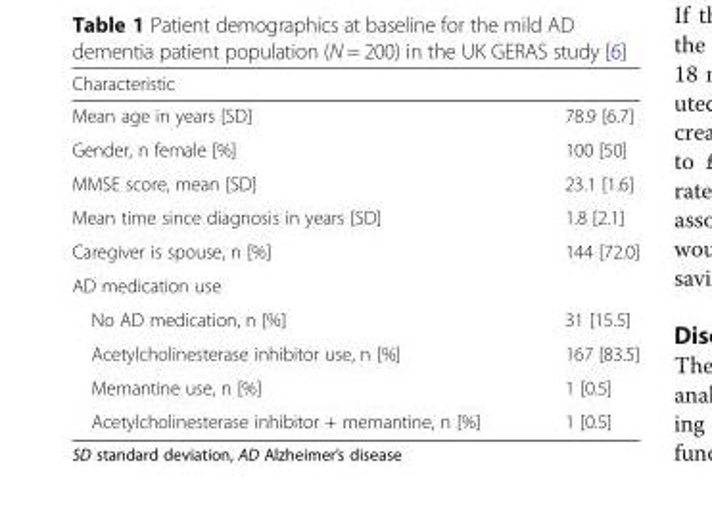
<table><thead><tr><td>Characteristic</td><td></td></tr></thead><tbody><tr><td>Mean age in years [SD]</td><td>78.9 [6.7]</td></tr><tr><td>Gender, n female [%]</td><td>100 [50]</td></tr><tr><td>MMSE score, mean [SD]</td><td>23.1 [1.6]</td></tr><tr><td>Mean time since diagnosis in years [SD]</td><td>1.8 [2.1]</td></tr><tr><td>Caregiver is spouse, n [%]</td><td>144 [72.0]</td></tr><tr><td colspan="2">AD medication use</td></tr><tr><td>No AD medication, n [%]</td><td>31 [15.5]</td></tr><tr><td>Acetylcholinesterase inhibitor use, n [%]</td><td>167 [83.5]</td></tr><tr><td>Memantine use, n [%]</td><td>1 [0.5]</td></tr><tr><td>Acetylcholinesterase inhibitor + memantine, n [%]</td><td>1 [0.5]</td></tr></tbody></table>